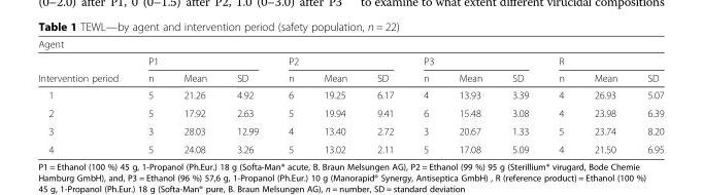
<table><thead><tr><td colspan="13">Agent</td></tr><tr><td rowspan="2">Intervention period</td><td colspan="3">P1</td><td colspan="3">P2</td><td colspan="3">P3</td><td colspan="3">R</td></tr><tr><td>n</td><td>Mean</td><td>SD</td><td>n</td><td>Mean</td><td>SD</td><td>n</td><td>Mean</td><td>SD</td><td>n</td><td>Mean</td><td>SD</td></tr></thead><tbody><tr><td>1</td><td>5</td><td>21.26</td><td>4.92</td><td>6</td><td>19.25</td><td>6.17</td><td>4</td><td>13.93</td><td>3.39</td><td>4</td><td>26.93</td><td>5.07</td></tr><tr><td>2</td><td>5</td><td>17.92</td><td>2.63</td><td>5</td><td>19.94</td><td>9.41</td><td>6</td><td>15.48</td><td>3.08</td><td>4</td><td>23.98</td><td>6.39</td></tr><tr><td>3</td><td>3</td><td>28.03</td><td>12.99</td><td>4</td><td>13.40</td><td>2.72</td><td>3</td><td>20.67</td><td>1.33</td><td>5</td><td>23.74</td><td>8.20</td></tr><tr><td>4</td><td>5</td><td>24.08</td><td>3.26</td><td>5</td><td>13.02</td><td>2.11</td><td>5</td><td>17.08</td><td>5.09</td><td>4</td><td>21.50</td><td>6.95</td></tr></tbody></table>